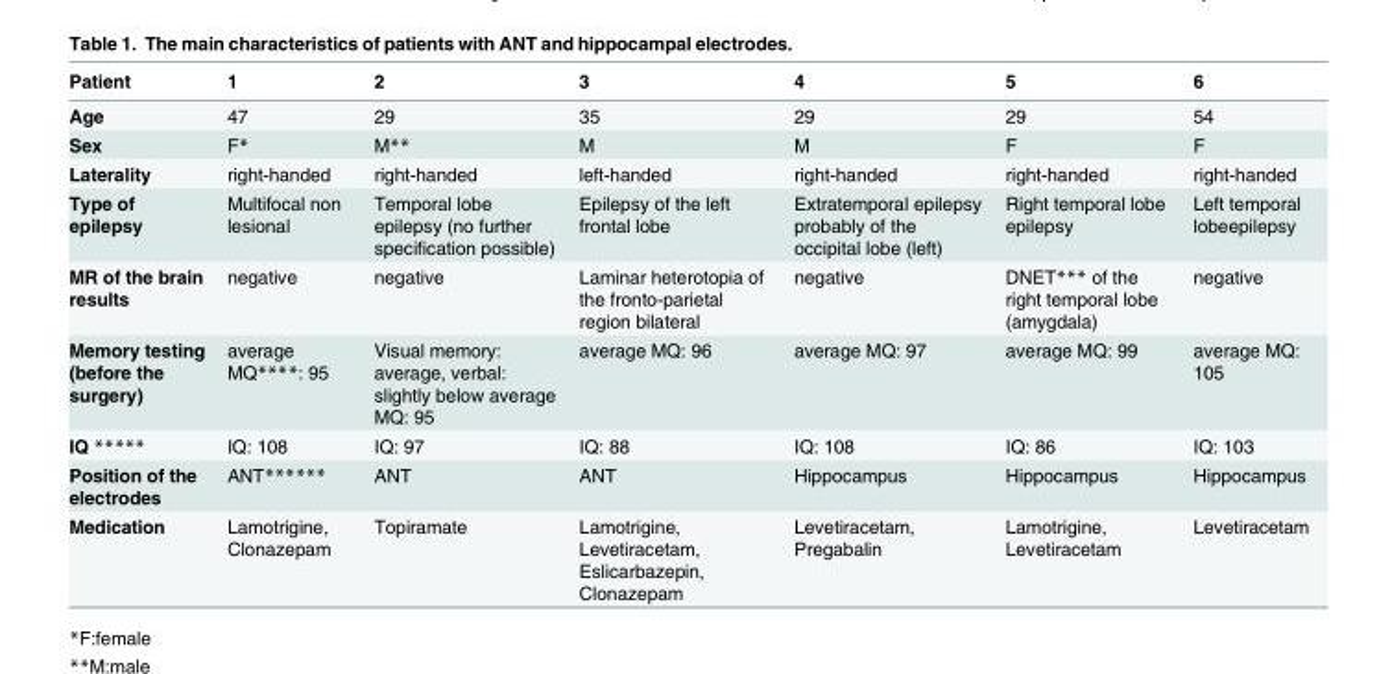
<table><thead><tr><td>Patient</td><td>1</td><td>2</td><td>3</td><td>4</td><td>5</td><td>6</td></tr></thead><tbody><tr><td>Age</td><td>47</td><td>29</td><td>35</td><td>29</td><td>29</td><td>54</td></tr><tr><td>Sex</td><td>F*</td><td>M**</td><td>M</td><td>M</td><td>F</td><td>F</td></tr><tr><td>Laterality</td><td>right-handed</td><td>right-handed</td><td>left-handed</td><td>right-handed</td><td>right-handed</td><td>right-handed</td></tr><tr><td>Type of epilepsy</td><td>Multifocal non lesional</td><td>Temporal lobe epilepsy (no further specification possible)</td><td>Epilepsy of the left frontal lobe</td><td>Extratemporal epilepsy probably of the occipital lobe (left)</td><td>Right temporal lobe epilepsy</td><td>Left temporal lobeepilepsy</td></tr><tr><td>MR of the brain results</td><td>negative</td><td>negative</td><td>Laminar heterotopia of the fronto-parietal region bilateral</td><td>negative</td><td>DNET*** of the right temporal lobe (amygdala)</td><td>negative</td></tr><tr><td>Memory testing (before the surgery)</td><td>average MQ****: 95</td><td>Visual memory: average, verbal: slightly below average MQ: 95</td><td>average MQ: 96</td><td>average MQ: 97</td><td>average MQ: 99</td><td>average MQ: 105</td></tr><tr><td>IQ *****</td><td>IQ: 108</td><td>IQ: 97</td><td>IQ: 88</td><td>IQ: 108</td><td>IQ: 86</td><td>IQ: 103</td></tr><tr><td>Position of the electrodes</td><td>ANT******</td><td>ANT</td><td>ANT</td><td>Hippocampus</td><td>Hippocampus</td><td>Hippocampus</td></tr><tr><td>Medication</td><td>Lamotrigine, Clonazepam</td><td>Topiramate</td><td>Lamotrigine, Levetiracetam, Eslicarbazepin, Clonazepam</td><td>Levetiracetam, Pregabalin</td><td>Lamotrigine, Levetiracetam</td><td>Levetiracetam</td></tr></tbody></table>